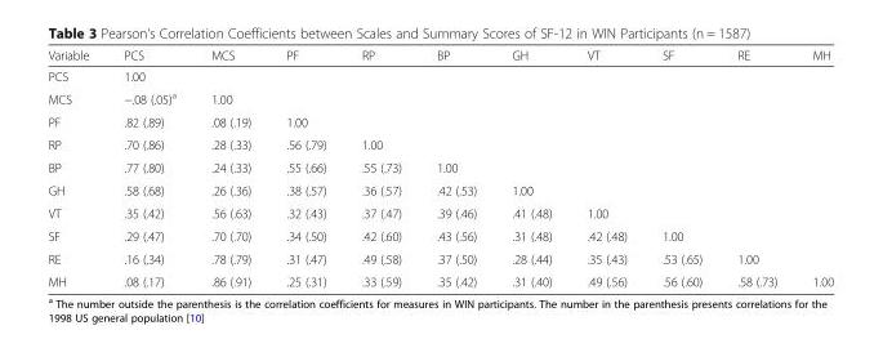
<table><thead><tr><td>Variable</td><td>PCS</td><td>MCS</td><td>PF</td><td>RP</td><td>BP</td><td>GH</td><td>VT</td><td>SF</td><td>RE</td><td>MH</td></tr></thead><tbody><tr><td>PCS</td><td>1.00</td><td></td><td></td><td></td><td></td><td></td><td></td><td></td><td></td><td></td></tr><tr><td>MCS</td><td>−.08 (.05)<sup>a</sup></td><td>1.00</td><td></td><td></td><td></td><td></td><td></td><td></td><td></td><td></td></tr><tr><td>PF</td><td>.82 (.89)</td><td>.08 (.19)</td><td>1.00</td><td></td><td></td><td></td><td></td><td></td><td></td><td></td></tr><tr><td>RP</td><td>.70 (.86)</td><td>.28 (.33)</td><td>.56 (.79)</td><td>1.00</td><td></td><td></td><td></td><td></td><td></td><td></td></tr><tr><td>BP</td><td>.77 (.80)</td><td>.24 (.33)</td><td>.55 (.66)</td><td>.55 (.73)</td><td>1.00</td><td></td><td></td><td></td><td></td><td></td></tr><tr><td>GH</td><td>.58 (.68)</td><td>.26 (.36)</td><td>.38 (.57)</td><td>.36 (.57)</td><td>.42 (.53)</td><td>1.00</td><td></td><td></td><td></td><td></td></tr><tr><td>VT</td><td>.35 (.42)</td><td>.56 (.63)</td><td>.32 (.43)</td><td>.37 (.47)</td><td>.39 (.46)</td><td>.41 (.48)</td><td>1.00</td><td></td><td></td><td></td></tr><tr><td>SF</td><td>.29 (.47)</td><td>.70 (.70)</td><td>.34 (.50)</td><td>.42 (.60)</td><td>.43 (.56)</td><td>.31 (.48)</td><td>.42 (.48)</td><td>1.00</td><td></td><td></td></tr><tr><td>RE</td><td>.16 (.34)</td><td>.78 (.79)</td><td>.31 (.47)</td><td>.49 (.58)</td><td>.37 (.50)</td><td>.28 (.44)</td><td>.35 (.43)</td><td>.53 (.65)</td><td>1.00</td><td></td></tr><tr><td>MH</td><td>.08 (.17)</td><td>.86 (.91)</td><td>.25 (.31)</td><td>.33 (.59)</td><td>.35 (.42)</td><td>.31 (.40)</td><td>.49 (.56)</td><td>.56 (.60)</td><td>.58 (.73)</td><td>1.00</td></tr></tbody></table>